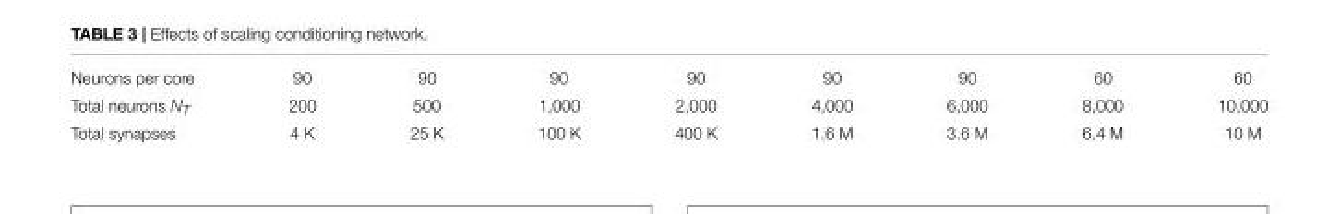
<table><tbody><tr><td>Neurons per core</td><td>90</td><td>90</td><td>90</td><td>90</td><td>90</td><td>90</td><td>60</td><td>60</td></tr><tr><td>Total neurons N<sub>T</sub></td><td>200</td><td>500</td><td>1,000</td><td>2,000</td><td>4,000</td><td>6,000</td><td>8,000</td><td>10,000</td></tr><tr><td>Total synapses</td><td>4 K</td><td>25 K</td><td>100 K</td><td>400 K</td><td>1.6 M</td><td>3.6 M</td><td>6.4 M</td><td>10 M</td></tr></tbody></table>